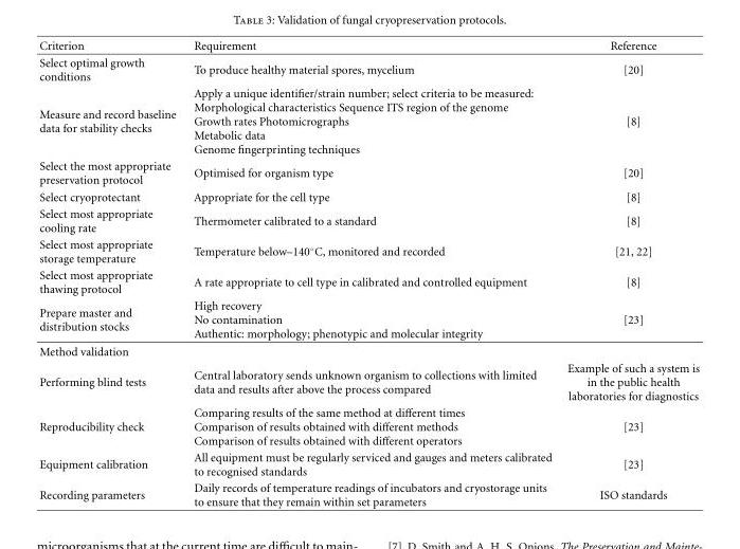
<table><thead><tr><td>Criterion</td><td>Requirement</td><td>Reference</td></tr></thead><tbody><tr><td>Select optimal growth conditions</td><td>To produce healthy material spores, mycelium</td><td>[20]</td></tr><tr><td>Measure and record baseline data for stability checks</td><td>Apply a unique identifier/strain number; select criteria to be measured: Morphological characteristics Sequence ITS region of the genome Growth rates Photomicrographs Metabolic data Genome fingerprinting techniques</td><td>[8]</td></tr><tr><td>Select the most appropriate preservation protocol</td><td>Optimised for organism type</td><td>[20]</td></tr><tr><td>Select cryoprotectant</td><td>Appropriate for the cell type</td><td>[8]</td></tr><tr><td>Select most appropriate cooling rate</td><td>Thermometer calibrated to a standard</td><td>[8]</td></tr><tr><td>Select most appropriate storage temperature</td><td>Temperature below–140◦C, monitored and recorded</td><td>[21, 22]</td></tr><tr><td>Select most appropriate thawing protocol</td><td>A rate appropriate to cell type in calibrated and controlled equipment</td><td>[8]</td></tr><tr><td>Prepare master and distribution stocks</td><td>High recovery No contamination Authentic: morphology; phenotypic and molecular integrity</td><td>[23]</td></tr><tr><td colspan="3">Method validation</td></tr><tr><td>Performing blind tests</td><td>Central laboratory sends unknown organism to collections with limited data and results after above the process compared</td><td>Example of such a system is in the public health laboratories for diagnostics</td></tr><tr><td>Reproducibility check</td><td>Comparing results of the same method at different times Comparison of results obtained with different methods Comparison of results obtained with different operators</td><td>[23]</td></tr><tr><td>Equipment calibration</td><td>All equipment must be regularly serviced and gauges and meters calibrated to recognised standards</td><td>[23]</td></tr><tr><td>Recording parameters</td><td>Daily records of temperature readings of incubators and cryostorage units to ensure that they remain within set parameters</td><td>ISO standards</td></tr></tbody></table>